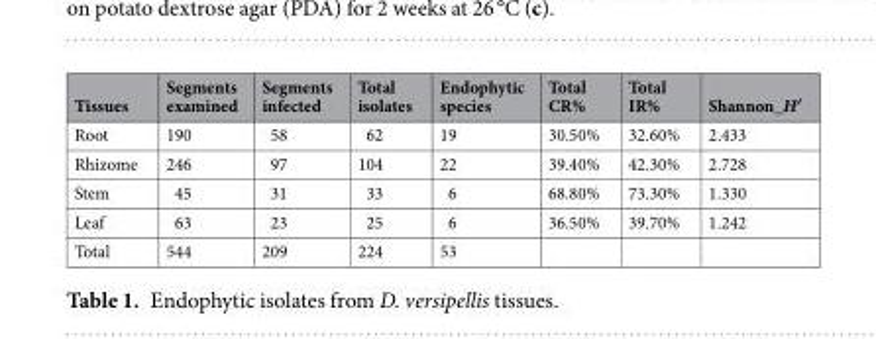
<table><thead><tr><td>Tissues</td><td>Segments examined</td><td>Segments infected</td><td>Total isolates</td><td>Endophytic species</td><td>Total CR%</td><td>Total IR%</td><td>Shannon_H′</td></tr></thead><tbody><tr><td>Root</td><td>190</td><td>58</td><td>62</td><td>19</td><td>30.50%</td><td>32.60%</td><td>2.433</td></tr><tr><td>Rhizome</td><td>246</td><td>97</td><td>104</td><td>22</td><td>39.40%</td><td>42.30%</td><td>2.728</td></tr><tr><td>Stem</td><td>45</td><td>31</td><td>33</td><td>6</td><td>68.80%</td><td>73.30%</td><td>1.330</td></tr><tr><td>Leaf</td><td>63</td><td>23</td><td>25</td><td>6</td><td>36.50%</td><td>39.70%</td><td>1.242</td></tr><tr><td>Total</td><td>544</td><td>209</td><td>224</td><td>53</td><td></td><td></td><td></td></tr></tbody></table>